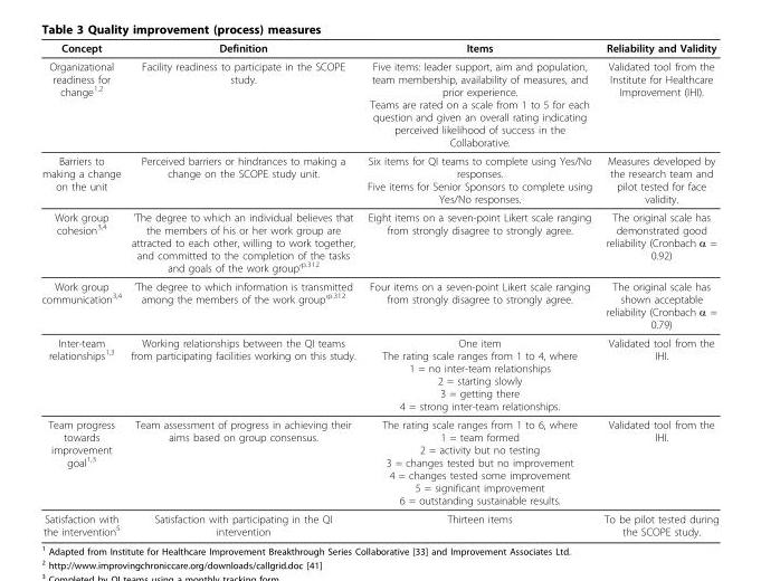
<table><thead><tr><td>Concept</td><td>Definition</td><td>Items</td><td>Reliability and Validity</td></tr></thead><tbody><tr><td>Organizational readiness for change<sup>1,2</sup></td><td>Facility readiness to participate in the SCOPE study.</td><td>Five items: leader support, aim and population, team membership, availability of measures, and prior experience. Teams are rated on a scale from 1 to 5 for each question and given an overall rating indicating perceived likelihood of success in the Collaborative.</td><td>Validated tool from the Institute for Healthcare Improvement (IHI).</td></tr><tr><td>Barriers to making a change on the unit</td><td>Perceived barriers or hindrances to making a change on the SCOPE study unit.</td><td>Six items for QI teams to complete using Yes/No responses. Five items for Senior Sponsors to complete using Yes/No responses.</td><td>Measures developed by the research team and pilot tested for face validity.</td></tr><tr><td>Work group cohesion<sup>3,4</sup></td><td>’The degree to which an individual believes that the members of his or her work group are attracted to each other, willing to work together, and committed to the completion of the tasks and goals of the work group’<sup>p.312</sup></td><td>Eight items on a seven-point Likert scale ranging from strongly disagree to strongly agree.</td><td>The original scale has demonstrated good reliability (Cronbach α = 0.92)</td></tr><tr><td>Work group communication<sup>3,4</sup></td><td>’The degree to which information is transmitted among the members of the work group’<sup>p.312</sup></td><td>Four items on a seven-point Likert scale ranging from strongly disagree to strongly agree.</td><td>The original scale has shown acceptable reliability (Cronbach α = 0.79)</td></tr><tr><td>Inter-team relationships<sup>1,3</sup></td><td>Working relationships between the QI teams from participating facilities working on this study.</td><td>One item The rating scale ranges from 1 to 4, where 1 = no inter-team relationships 2 = starting slowly 3 = getting there 4 = strong inter-team relationships.</td><td>Validated tool from the IHI.</td></tr><tr><td>Team progress towards improvement goal<sup>1,3</sup></td><td>Team assessment of progress in achieving their aims based on group consensus.</td><td>The rating scale ranges from 1 to 6, where 1 = team formed 2 = activity but no testing 3 = changes tested but no improvement 4 = changes tested some improvement 5 = significant improvement 6 = outstanding sustainable results.</td><td>Validated tool from the IHI.</td></tr><tr><td>Satisfaction with the intervention<sup>5</sup></td><td>Satisfaction with participating in the QI intervention</td><td>Thirteen items</td><td>To be pilot tested during the SCOPE study.</td></tr></tbody></table>